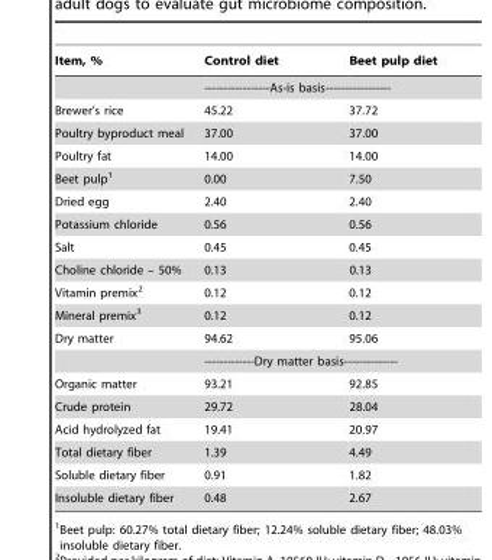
<table><thead><tr><td>Item, %</td><td>Control diet</td><td>Beet pulp diet</td></tr></thead><tbody><tr><td></td><td colspan="2">-----------------As-is basis-----------------</td></tr><tr><td>Brewer’s rice</td><td>45.22</td><td>37.72</td></tr><tr><td>Poultry byproduct meal</td><td>37.00</td><td>37.00</td></tr><tr><td>Poultry fat</td><td>14.00</td><td>14.00</td></tr><tr><td>Beet pulp<sup>1</sup></td><td>0.00</td><td>7.50</td></tr><tr><td>Dried egg</td><td>2.40</td><td>2.40</td></tr><tr><td>Potassium chloride</td><td>0.56</td><td>0.56</td></tr><tr><td>Salt</td><td>0.45</td><td>0.45</td></tr><tr><td>Choline chloride – 50%</td><td>0.13</td><td>0.13</td></tr><tr><td>Vitamin premix<sup>2</sup></td><td>0.12</td><td>0.12</td></tr><tr><td>Mineral premix<sup>3</sup></td><td>0.12</td><td>0.12</td></tr><tr><td rowspan="2">Dry matter</td><td>94.62</td><td>95.06</td></tr><tr><td colspan="2">-------------Dry matter basis--------------</td></tr><tr><td>Organic matter</td><td>93.21</td><td>92.85</td></tr><tr><td>Crude protein</td><td>29.72</td><td>28.04</td></tr><tr><td>Acid hydrolyzed fat</td><td>19.41</td><td>20.97</td></tr><tr><td>Total dietary fiber</td><td>1.39</td><td>4.49</td></tr><tr><td>Soluble dietary fiber</td><td>0.91</td><td>1.82</td></tr><tr><td>Insoluble dietary fiber</td><td>0.48</td><td>2.67</td></tr></tbody></table>